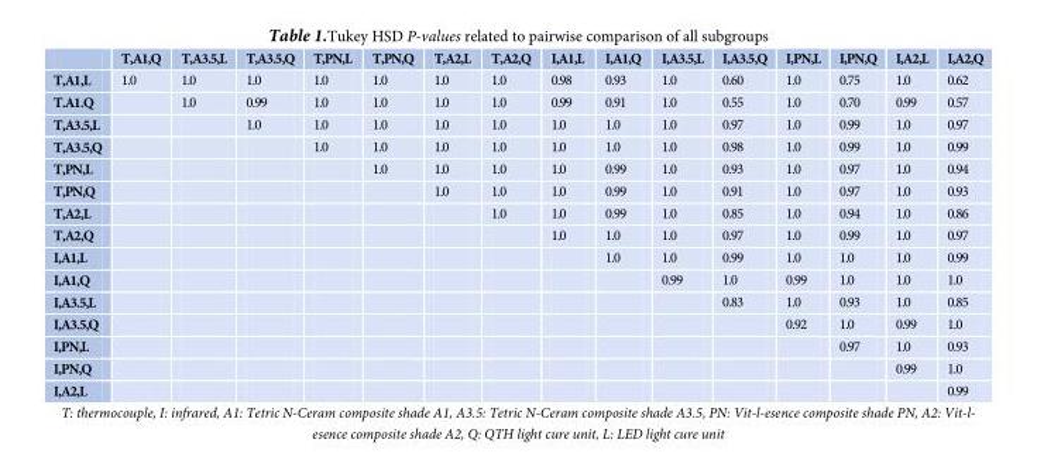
<table><thead><tr><td></td><td>T,A1,Q</td><td>T,A3.5,L</td><td>T,A3.5,Q</td><td>T,PN,L</td><td>T,PN,Q</td><td>T,A2,L</td><td>T,A2,Q</td><td>I,A1,L</td><td>I,A1,Q</td><td>I,A3.5,L</td><td>I,A3.5,Q</td><td>I,PN,L</td><td>I,PN,Q</td><td>I,A2,L</td><td>I,A2,Q</td></tr></thead><tbody><tr><td>T,A1,L</td><td>1.0</td><td>1.0</td><td>1.0</td><td>1.0</td><td>1.0</td><td>1.0</td><td>1.0</td><td>0.98</td><td>0.93</td><td>1.0</td><td>0.60</td><td>1.0</td><td>0.75</td><td>1.0</td><td>0.62</td></tr><tr><td>T.A1.Q</td><td></td><td>1.0</td><td>0.99</td><td>1.0</td><td>1.0</td><td>1.0</td><td>1.0</td><td>0.99</td><td>0.91</td><td>1.0</td><td>0.55</td><td>1.0</td><td>0.70</td><td>0.99</td><td>0.57</td></tr><tr><td>T,A3.5,L</td><td></td><td></td><td>1.0</td><td>1.0</td><td>1.0</td><td>1.0</td><td>1.0</td><td>1.0</td><td>1.0</td><td>1.0</td><td>0.97</td><td>1.0</td><td>0.99</td><td>1.0</td><td>0.97</td></tr><tr><td>T,A3.5,Q</td><td></td><td></td><td></td><td>1.0</td><td>1.0</td><td>1.0</td><td>1.0</td><td>1.0</td><td>1.0</td><td>1.0</td><td>0.98</td><td>1.0</td><td>0.99</td><td>1.0</td><td>0.99</td></tr><tr><td>T,PN,L</td><td></td><td></td><td></td><td></td><td>1.0</td><td>1.0</td><td>1.0</td><td>1.0</td><td>0.99</td><td>1.0</td><td>0.93</td><td>1.0</td><td>0.97</td><td>1.0</td><td>0.94</td></tr><tr><td>T,PN,Q</td><td></td><td></td><td></td><td></td><td></td><td>1.0</td><td>1.0</td><td>1.0</td><td>0.99</td><td>1.0</td><td>0.91</td><td>1.0</td><td>0.97</td><td>1.0</td><td>0.93</td></tr><tr><td>T,A2,L</td><td></td><td></td><td></td><td></td><td></td><td></td><td>1.0</td><td>1.0</td><td>0.99</td><td>1.0</td><td>0.85</td><td>1.0</td><td>0.94</td><td>1.0</td><td>0.86</td></tr><tr><td>T,A2,Q</td><td></td><td></td><td></td><td></td><td></td><td></td><td></td><td>1.0</td><td>1.0</td><td>1.0</td><td>0.97</td><td>1.0</td><td>0.99</td><td>1.0</td><td>0.97</td></tr><tr><td>I,A1,L</td><td></td><td></td><td></td><td></td><td></td><td></td><td></td><td></td><td>1.0</td><td>1.0</td><td>0.99</td><td>1.0</td><td>1.0</td><td>1.0</td><td>0.99</td></tr><tr><td>I,A1,Q</td><td></td><td></td><td></td><td></td><td></td><td></td><td></td><td></td><td></td><td>0.99</td><td>1.0</td><td>0.99</td><td>1.0</td><td>1.0</td><td>1.0</td></tr><tr><td>I,A3.5,L</td><td></td><td></td><td></td><td></td><td></td><td></td><td></td><td></td><td></td><td></td><td>0.83</td><td>1.0</td><td>0.93</td><td>1.0</td><td>0.85</td></tr><tr><td>I,A3.5,Q</td><td></td><td></td><td></td><td></td><td></td><td></td><td></td><td></td><td></td><td></td><td></td><td>0.92</td><td>1.0</td><td>0.99</td><td>1.0</td></tr><tr><td>I,PN,L</td><td></td><td></td><td></td><td></td><td></td><td></td><td></td><td></td><td></td><td></td><td></td><td></td><td>0.97</td><td>1.0</td><td>0.93</td></tr><tr><td>I,PN,Q</td><td></td><td></td><td></td><td></td><td></td><td></td><td></td><td></td><td></td><td></td><td></td><td></td><td></td><td>0.99</td><td>1.0</td></tr><tr><td>I,A2,L</td><td></td><td></td><td></td><td></td><td></td><td></td><td></td><td></td><td></td><td></td><td></td><td></td><td></td><td></td><td>0.99</td></tr></tbody></table>